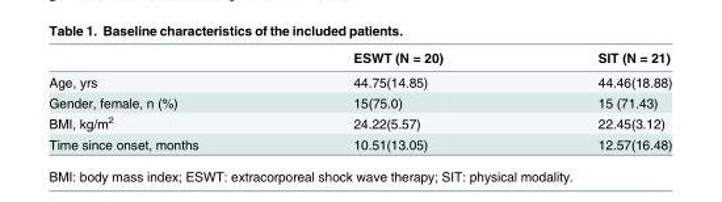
<table><thead><tr><td></td><td>ESWT (N = 20)</td><td>SIT (N = 21)</td></tr></thead><tbody><tr><td>Age, yrs</td><td>44.75(14.85)</td><td>44.46(18.88)</td></tr><tr><td>Gender, female, n (%)</td><td>15(75.0)</td><td>15 (71.43)</td></tr><tr><td>BMI, kg/m<sup>2</sup></td><td>24.22(5.57)</td><td>22.45(3.12)</td></tr><tr><td>Time since onset, months</td><td>10.51(13.05)</td><td>12.57(16.48)</td></tr></tbody></table>